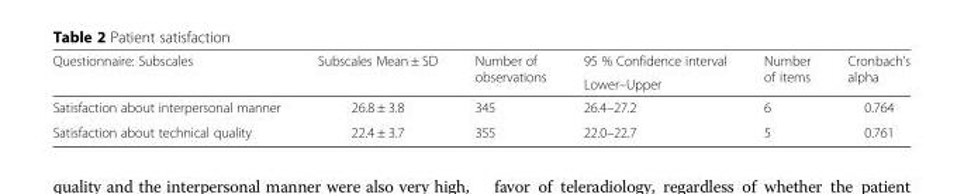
<table><thead><tr><td rowspan="2">Questionnaire: Subscales</td><td rowspan="2">Subscales Mean ± SD</td><td rowspan="2">Number of observations</td><td rowspan="2">95 % Confidence interval Lower–Upper</td><td rowspan="2">Number of items</td><td rowspan="2">Cronbach’s alpha</td></tr><tr></tr></thead><tbody><tr><td>Satisfaction about interpersonal manner</td><td>26.8 ± 3.8</td><td>345</td><td>26.4–27.2</td><td>6</td><td>0.764</td></tr><tr><td>Satisfaction about technical quality</td><td>22.4 ± 3.7</td><td>355</td><td>22.0–22.7</td><td>5</td><td>0.761</td></tr></tbody></table>